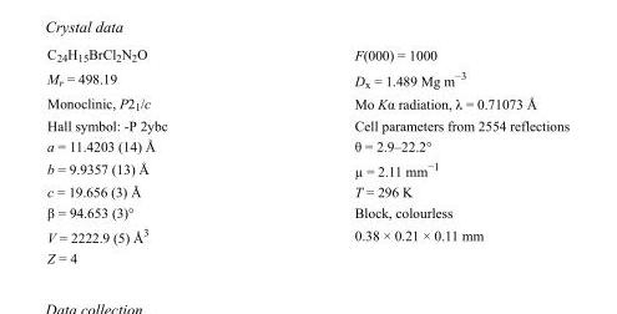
<table><tbody><tr><td>C<sub>24</sub>H<sub>15</sub>BrCl<sub>2</sub>N<sub>2</sub>O</td><td>F(000) = 1000</td></tr><tr><td>M<sub>r</sub> = 498.19</td><td>D<sub>x</sub> = 1.489 Mg m<sup>−3</sup></td></tr><tr><td>Monoclinic, P2<sub>1</sub>/c</td><td>Mo Kα radiation, λ = 0.71073 Å</td></tr><tr><td>Hall symbol: -P 2ybc</td><td>Cell parameters from 2554 reflections</td></tr><tr><td>a = 11.4203 (14) Å</td><td>θ = 2.9–22.2°</td></tr><tr><td>b = 9.9357 (13) Å</td><td>µ = 2.11 mm<sup>−1</sup></td></tr><tr><td>c = 19.656 (3) Å</td><td>T = 296 K</td></tr><tr><td>β = 94.653 (3)°</td><td>Block, colourless</td></tr><tr><td>V = 2222.9 (5) Å<sup>3</sup></td><td>0.38 × 0.21 × 0.11 mm</td></tr><tr><td>Z = 4</td><td></td></tr></tbody></table>